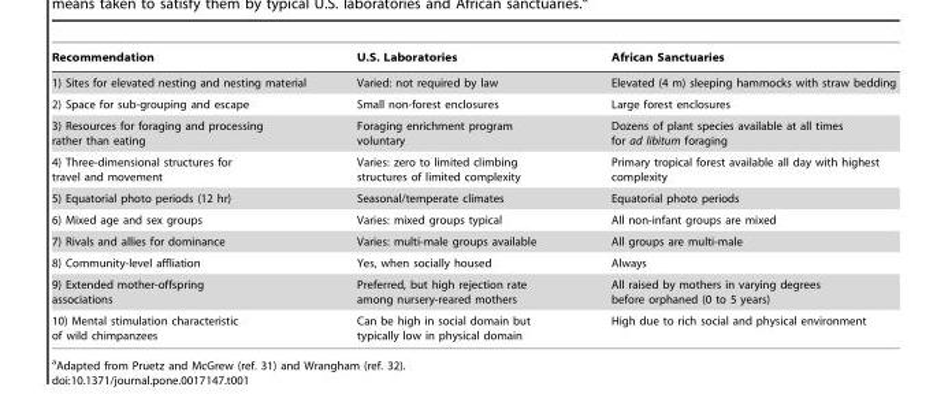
<table><thead><tr><td>Recommendation</td><td>U.S. Laboratories</td><td>African Sanctuaries</td></tr></thead><tbody><tr><td>1) Sites for elevated nesting and nesting material</td><td>Varied: not required by law</td><td>Elevated (4 m) sleeping hammocks with straw bedding</td></tr><tr><td>2) Space for sub-grouping and escape</td><td>Small non-forest enclosures</td><td>Large forest enclosures</td></tr><tr><td>3) Resources for foraging and processing rather than eating</td><td>Foraging enrichment program voluntary</td><td>Dozens of plant species available at all times for ad libitum foraging</td></tr><tr><td>4) Three-dimensional structures for travel and movement</td><td>Varies: zero to limited climbing structures of limited complexity</td><td>Primary tropical forest available all day with highest complexity</td></tr><tr><td>5) Equatorial photo periods (12 hr)</td><td>Seasonal/temperate climates</td><td>Equatorial photo periods</td></tr><tr><td>6) Mixed age and sex groups</td><td>Varies: mixed groups typical</td><td>All non-infant groups are mixed</td></tr><tr><td>7) Rivals and allies for dominance</td><td>Varies: multi-male groups available</td><td>All groups are multi-male</td></tr><tr><td>8) Community-level affliation</td><td>Yes, when socially housed</td><td>Always</td></tr><tr><td>9) Extended mother-offspring associations</td><td>Preferred, but high rejection rate among nursery-reared mothers</td><td>All raised by mothers in varying degrees before orphaned (0 to 5 years)</td></tr><tr><td>10) Mental stimulation characteristic of wild chimpanzees</td><td>Can be high in social domain but typically low in physical domain</td><td>High due to rich social and physical environment</td></tr></tbody></table>